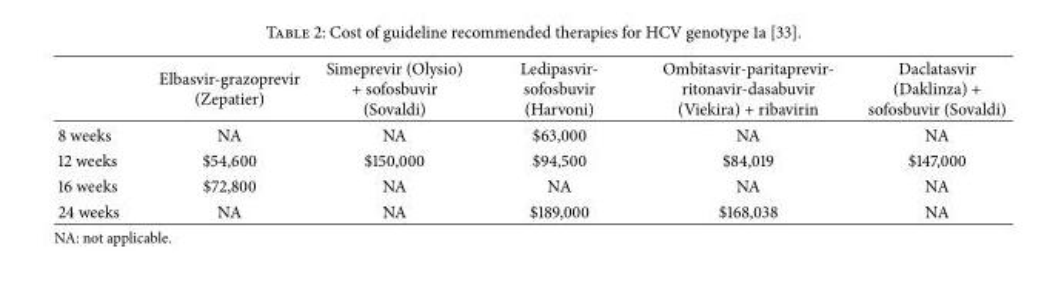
<table><thead><tr><td></td><td>Elbasvir-grazoprevir (Zepatier)</td><td>Simeprevir (Olysio) + sofosbuvir (Sovaldi)</td><td>Ledipasvir- sofosbuvir (Harvoni)</td><td>Ombitasvir-paritaprevir- ritonavir-dasabuvir (Viekira) + ribavirin</td><td>Daclatasvir (Daklinza) + sofosbuvir (Sovaldi)</td></tr></thead><tbody><tr><td>8 weeks</td><td>NA</td><td>NA</td><td>$63,000</td><td>NA</td><td>NA</td></tr><tr><td>12 weeks</td><td>$54,600</td><td>$150,000</td><td>$94,500</td><td>$84,019</td><td>$147,000</td></tr><tr><td>16 weeks</td><td>$72,800</td><td>NA</td><td>NA</td><td>NA</td><td>NA</td></tr><tr><td>24 weeks</td><td>NA</td><td>NA</td><td>$189,000</td><td>$168,038</td><td>NA</td></tr></tbody></table>